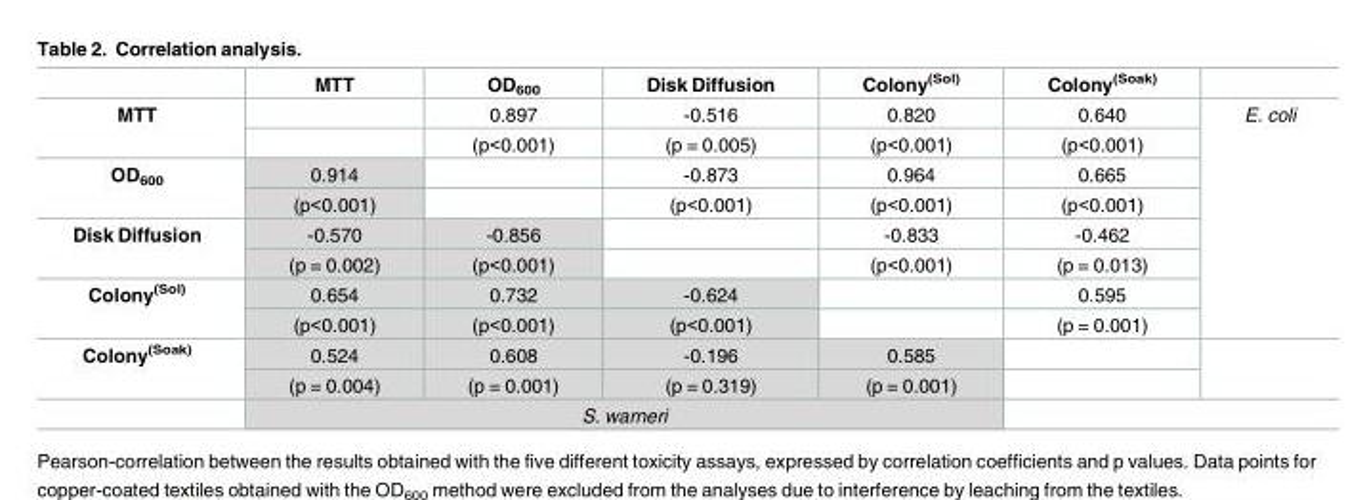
<table><thead><tr><td></td><td>MTT</td><td>OD<sub>600</sub></td><td>Disk Diffusion</td><td>Colony<sup>(Sol)</sup></td><td>Colony<sup>(Soak)</sup></td><td></td></tr></thead><tbody><tr><td rowspan="2">MTT</td><td></td><td>0.897</td><td>-0.516</td><td>0.820</td><td>0.640</td><td rowspan="8">E. coli</td></tr><tr><td></td><td>(p&lt;0.001)</td><td>(p = 0.005)</td><td>(p&lt;0.001)</td><td>(p&lt;0.001)</td></tr><tr><td rowspan="2">OD<sub>600</sub></td><td>0.914</td><td></td><td>-0.873</td><td>0.964</td><td>0.665</td></tr><tr><td>(p&lt;0.001)</td><td></td><td>(p&lt;0.001)</td><td>(p&lt;0.001)</td><td>(p&lt;0.001)</td></tr><tr><td rowspan="2">Disk Diffusion</td><td>-0.570</td><td>-0.856</td><td></td><td>-0.833</td><td>-0.462</td></tr><tr><td>(p = 0.002)</td><td>(p&lt;0.001)</td><td></td><td>(p&lt;0.001)</td><td>(p = 0.013)</td></tr><tr><td rowspan="2">Colony<sup>(Sol)</sup></td><td>0.654</td><td>0.732</td><td>-0.624</td><td></td><td>0.595</td></tr><tr><td>(p&lt;0.001)</td><td>(p&lt;0.001)</td><td>(p&lt;0.001)</td><td></td><td>(p = 0.001)</td></tr><tr><td rowspan="3">Colony<sup>(Soak)</sup></td><td>0.524</td><td>0.608</td><td>-0.196</td><td>0.585</td><td></td><td rowspan="2"></td></tr><tr><td>(p = 0.004)</td><td>(p = 0.001)</td><td>(p = 0.319)</td><td>(p = 0.001)</td><td></td></tr><tr><td colspan="4">S. warneri</td><td colspan="2"></td></tr></tbody></table>